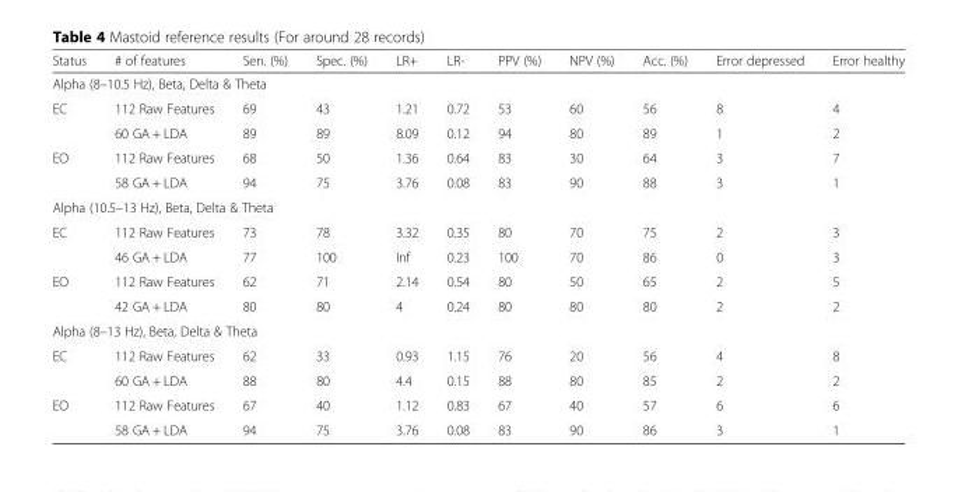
<table><thead><tr><td>Status</td><td># of features</td><td>Sen. (%)</td><td>Spec. (%)</td><td>LR+</td><td>LR-</td><td>PPV (%)</td><td>NPV (%)</td><td>Acc. (%)</td><td>Error depressed</td><td>Error healthy</td></tr></thead><tbody><tr><td colspan="11">Alpha (8–10.5 Hz), Beta, Delta &amp; Theta</td></tr><tr><td rowspan="2">EC</td><td>112 Raw Features</td><td>69</td><td>43</td><td>1.21</td><td>0.72</td><td>53</td><td>60</td><td>56</td><td>8</td><td>4</td></tr><tr><td>60 GA + LDA</td><td>89</td><td>89</td><td>8.09</td><td>0.12</td><td>94</td><td>80</td><td>89</td><td>1</td><td>2</td></tr><tr><td rowspan="2">EO</td><td>112 Raw Features</td><td>68</td><td>50</td><td>1.36</td><td>0.64</td><td>83</td><td>30</td><td>64</td><td>3</td><td>7</td></tr><tr><td>58 GA + LDA</td><td>94</td><td>75</td><td>3.76</td><td>0.08</td><td>83</td><td>90</td><td>88</td><td>3</td><td>1</td></tr><tr><td colspan="11">Alpha (10.5–13 Hz), Beta, Delta &amp; Theta</td></tr><tr><td rowspan="2">EC</td><td>112 Raw Features</td><td>73</td><td>78</td><td>3.32</td><td>0.35</td><td>80</td><td>70</td><td>75</td><td>2</td><td>3</td></tr><tr><td>46 GA + LDA</td><td>77</td><td>100</td><td>Inf</td><td>0.23</td><td>100</td><td>70</td><td>86</td><td>0</td><td>3</td></tr><tr><td rowspan="2">EO</td><td>112 Raw Features</td><td>62</td><td>71</td><td>2.14</td><td>0.54</td><td>80</td><td>50</td><td>65</td><td>2</td><td>5</td></tr><tr><td>42 GA + LDA</td><td>80</td><td>80</td><td>4</td><td>0.24</td><td>80</td><td>80</td><td>80</td><td>2</td><td>2</td></tr><tr><td colspan="11">Alpha (8–13 Hz), Beta, Delta &amp; Theta</td></tr><tr><td rowspan="2">EC</td><td>112 Raw Features</td><td>62</td><td>33</td><td>0.93</td><td>1.15</td><td>76</td><td>20</td><td>56</td><td>4</td><td>8</td></tr><tr><td>60 GA + LDA</td><td>88</td><td>80</td><td>4.4</td><td>0.15</td><td>88</td><td>80</td><td>85</td><td>2</td><td>2</td></tr><tr><td rowspan="2">EO</td><td>112 Raw Features</td><td>67</td><td>40</td><td>1.12</td><td>0.83</td><td>67</td><td>40</td><td>57</td><td>6</td><td>6</td></tr><tr><td>58 GA + LDA</td><td>94</td><td>75</td><td>3.76</td><td>0.08</td><td>83</td><td>90</td><td>86</td><td>3</td><td>1</td></tr></tbody></table>